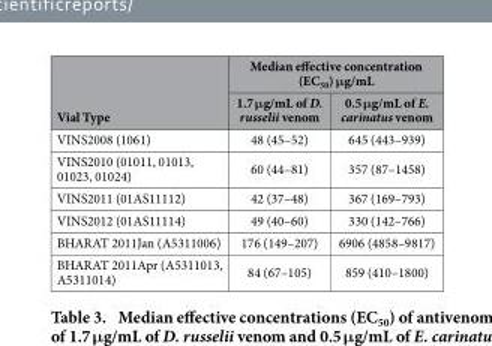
<table><thead><tr><td rowspan="2">Vial Type</td><td colspan="2">Median effective concentration (EC<sub>50</sub>) μg/mL</td></tr><tr><td>1.7 μg/mL of D. russelii venom</td><td>0.5 μg/mL of E. carinatus venom</td></tr></thead><tbody><tr><td>VINS2008 (1061)</td><td>48 (45–52)</td><td>645 (443–939)</td></tr><tr><td>VINS2010 (01011, 01013, 01023, 01024)</td><td>60 (44–81)</td><td>357 (87–1458)</td></tr><tr><td>VINS2011 (01AS11112)</td><td>42 (37–48)</td><td>367 (169–793)</td></tr><tr><td>VINS2012 (01AS11114)</td><td>49 (40–60)</td><td>330 (142–766)</td></tr><tr><td>BHARAT 2011Jan (A5311006)</td><td>176 (149–207)</td><td>6906 (4858–9817)</td></tr><tr><td>BHARAT 2011Apr (A5311013, A5311014)</td><td>84 (67–105)</td><td>859 (410–1800)</td></tr></tbody></table>